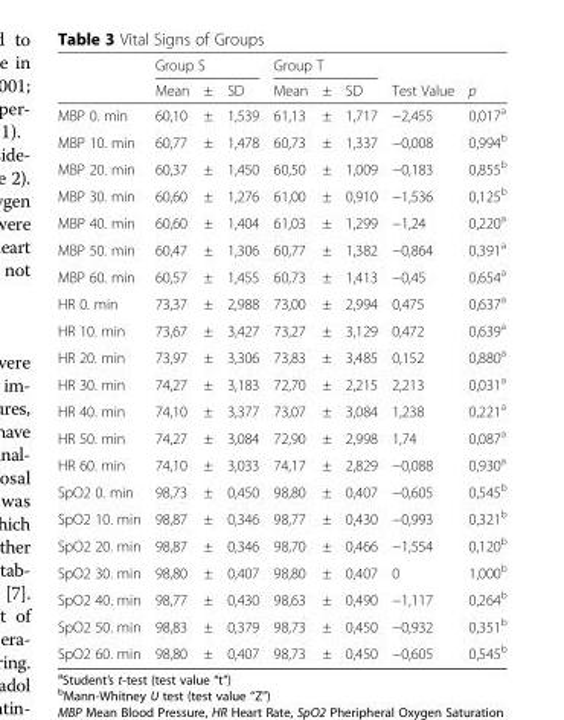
<table><thead><tr><td rowspan="2"></td><td colspan="3">Group S</td><td colspan="3">Group T</td><td rowspan="2">Test Value</td><td rowspan="2">p</td></tr><tr><td>Mean</td><td>±</td><td>SD</td><td>Mean</td><td>±</td><td>SD</td></tr></thead><tbody><tr><td>MBP 0. min</td><td>60,10</td><td>±</td><td>1,539</td><td>61,13</td><td>±</td><td>1,717</td><td>−2,455</td><td>0,017<sup>a</sup></td></tr><tr><td>MBP 10. min</td><td>60,77</td><td>±</td><td>1,478</td><td>60,73</td><td>±</td><td>1,337</td><td>−0,008</td><td>0,994<sup>b</sup></td></tr><tr><td>MBP 20. min</td><td>60,37</td><td>±</td><td>1,450</td><td>60,50</td><td>±</td><td>1,009</td><td>−0,183</td><td>0,855<sup>b</sup></td></tr><tr><td>MBP 30. min</td><td>60,60</td><td>±</td><td>1,276</td><td>61,00</td><td>±</td><td>0,910</td><td>−1,536</td><td>0,125<sup>b</sup></td></tr><tr><td>MBP 40. min</td><td>60,60</td><td>±</td><td>1,404</td><td>61,03</td><td>±</td><td>1,299</td><td>−1,24</td><td>0,220<sup>a</sup></td></tr><tr><td>MBP 50. min</td><td>60,47</td><td>±</td><td>1,306</td><td>60,77</td><td>±</td><td>1,382</td><td>−0,864</td><td>0,391<sup>a</sup></td></tr><tr><td>MBP 60. min</td><td>60,57</td><td>±</td><td>1,455</td><td>60,73</td><td>±</td><td>1,413</td><td>−0,45</td><td>0,654<sup>a</sup></td></tr><tr><td>HR 0. min</td><td>73,37</td><td>±</td><td>2,988</td><td>73,00</td><td>±</td><td>2,994</td><td>0,475</td><td>0,637<sup>a</sup></td></tr><tr><td>HR 10. min</td><td>73,67</td><td>±</td><td>3,427</td><td>73,27</td><td>±</td><td>3,129</td><td>0,472</td><td>0,639<sup>a</sup></td></tr><tr><td>HR 20. min</td><td>73,97</td><td>±</td><td>3,306</td><td>73,83</td><td>±</td><td>3,485</td><td>0,152</td><td>0,880<sup>a</sup></td></tr><tr><td>HR 30. min</td><td>74,27</td><td>±</td><td>3,183</td><td>72,70</td><td>±</td><td>2,215</td><td>2,213</td><td>0,031<sup>a</sup></td></tr><tr><td>HR 40. min</td><td>74,10</td><td>±</td><td>3,377</td><td>73,07</td><td>±</td><td>3,084</td><td>1,238</td><td>0,221<sup>a</sup></td></tr><tr><td>HR 50. min</td><td>74,27</td><td>±</td><td>3,084</td><td>72,90</td><td>±</td><td>2,998</td><td>1,74</td><td>0,087<sup>a</sup></td></tr><tr><td>HR 60. min</td><td>74,10</td><td>±</td><td>3,033</td><td>74,17</td><td>±</td><td>2,829</td><td>−0,088</td><td>0,930<sup>a</sup></td></tr><tr><td>SpO2 0. min</td><td>98,73</td><td>±</td><td>0,450</td><td>98,80</td><td>±</td><td>0,407</td><td>−0,605</td><td>0,545<sup>b</sup></td></tr><tr><td>SpO2 10. min</td><td>98,87</td><td>±</td><td>0,346</td><td>98,77</td><td>±</td><td>0,430</td><td>−0,993</td><td>0,321<sup>b</sup></td></tr><tr><td>SpO2 20. min</td><td>98,87</td><td>±</td><td>0,346</td><td>98,70</td><td>±</td><td>0,466</td><td>−1,554</td><td>0,120<sup>b</sup></td></tr><tr><td>SpO2 30. min</td><td>98,80</td><td>±</td><td>0,407</td><td>98,80</td><td>±</td><td>0,407</td><td>0</td><td>1,000<sup>b</sup></td></tr><tr><td>SpO2 40. min</td><td>98,77</td><td>±</td><td>0,430</td><td>98,63</td><td>±</td><td>0,490</td><td>−1,117</td><td>0,264<sup>b</sup></td></tr><tr><td>SpO2 50. min</td><td>98,83</td><td>±</td><td>0,379</td><td>98,73</td><td>±</td><td>0,450</td><td>−0,932</td><td>0,351<sup>b</sup></td></tr><tr><td>SpO2 60. min</td><td>98,80</td><td>±</td><td>0,407</td><td>98,73</td><td>±</td><td>0,450</td><td>−0,605</td><td>0,545<sup>b</sup></td></tr></tbody></table>